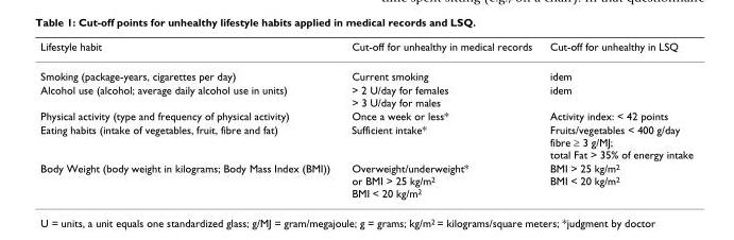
<table><thead><tr><td>Lifestyle habit</td><td>Cut-off for unhealthy in medical records</td><td>Cut-off for unhealthy in LSQ</td></tr></thead><tbody><tr><td>Smoking (package-years, cigarettes per day)</td><td>Current smoking</td><td>idem</td></tr><tr><td>Alcohol use (alcohol; average daily alcohol use in units)</td><td>&gt; 2 U/day for females &gt; 3 U/day for males</td><td>idem</td></tr><tr><td>Physical activity (type and frequency of physical activity)</td><td>Once a week or less*</td><td>Activity index: &lt; 42 points</td></tr><tr><td>Eating habits (intake of vegetables, fruit, fibre and fat)</td><td>Sufficient intake*</td><td>Fruits/vegetables &lt; 400 g/day fibre ≥ 3 g/MJ; total Fat &gt; 35% of energy intake</td></tr><tr><td>Body Weight (body weight in kilograms; Body Mass Index (BMI))</td><td>Overweight/underweight* or BMI &gt; 25 kg/m<sup>2</sup> BMI &lt; 20 kg/m<sup>2</sup></td><td>BMI &gt; 25 kg/m<sup>2</sup> BMI &lt; 20 kg/m<sup>2</sup></td></tr></tbody></table>